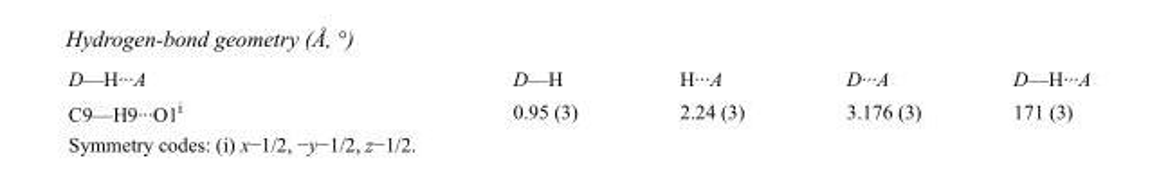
<table><tbody><tr><td>D—H···A</td><td>D—H</td><td>H···A</td><td>D···A</td><td>D—H···A</td></tr><tr><td>C9—H9···O1<sup>i</sup></td><td>0.95 (3)</td><td>2.24 (3)</td><td>3.176 (3)</td><td>171 (3)</td></tr></tbody></table>